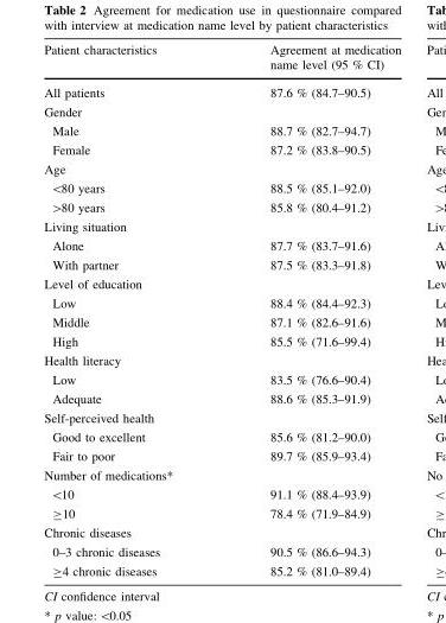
<table><thead><tr><td>Patient characteristics</td><td>Agreement at medication name level (95 % CI)</td></tr></thead><tbody><tr><td>All patients</td><td>87.6 % (84.7–90.5)</td></tr><tr><td colspan="2">Gender</td></tr><tr><td>Male</td><td>88.7 % (82.7–94.7)</td></tr><tr><td>Female</td><td>87.2 % (83.8–90.5)</td></tr><tr><td colspan="2">Age</td></tr><tr><td>&lt;80 years</td><td>88.5 % (85.1–92.0)</td></tr><tr><td>&gt;80 years</td><td>85.8 % (80.4–91.2)</td></tr><tr><td colspan="2">Living situation</td></tr><tr><td>Alone</td><td>87.7 % (83.7–91.6)</td></tr><tr><td>With partner</td><td>87.5 % (83.3–91.8)</td></tr><tr><td colspan="2">Level of education</td></tr><tr><td>Low</td><td>88.4 % (84.4–92.3)</td></tr><tr><td>Middle</td><td>87.1 % (82.6–91.6)</td></tr><tr><td>High</td><td>85.5 % (71.6–99.4)</td></tr><tr><td colspan="2">Health literacy</td></tr><tr><td>Low</td><td>83.5 % (76.6–90.4)</td></tr><tr><td>Adequate</td><td>88.6 % (85.3–91.9)</td></tr><tr><td colspan="2">Self-perceived health</td></tr><tr><td>Good to excellent</td><td>85.6 % (81.2–90.0)</td></tr><tr><td>Fair to poor</td><td>89.7 % (85.9–93.4)</td></tr><tr><td colspan="2">Number of medications*</td></tr><tr><td>&lt;10</td><td>91.1 % (88.4–93.9)</td></tr><tr><td>≥10</td><td>78.4 % (71.9–84.9)</td></tr><tr><td colspan="2">Chronic diseases</td></tr><tr><td>0–3 chronic diseases</td><td>90.5 % (86.6–94.3)</td></tr><tr><td>≥4 chronic diseases</td><td>85.2 % (81.0–89.4)</td></tr></tbody></table>